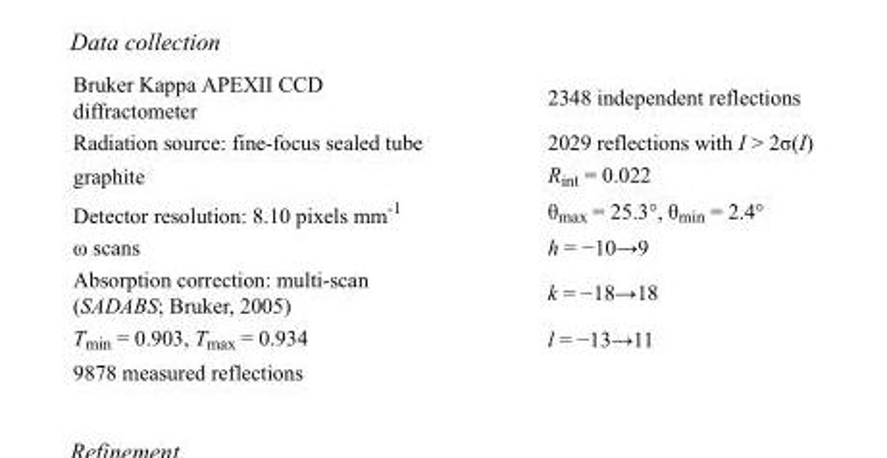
<table><tbody><tr><td>Bruker Kappa APEXII CCD diffractometer</td><td>2348 independent reflections</td></tr><tr><td>Radiation source: fine-focus sealed tube</td><td>2029 reflections with I &gt; 2σ(I)</td></tr><tr><td>graphite</td><td>R<sub>int</sub> = 0.022</td></tr><tr><td>Detector resolution: 8.10 pixels mm<sup>-1</sup></td><td>θ<sub>max</sub> = 25.3°, θ<sub>min</sub> = 2.4°</td></tr><tr><td>ω scans</td><td>h = −10→9</td></tr><tr><td>Absorption correction: multi-scan (SADABS; Bruker, 2005)</td><td>k = −18→18</td></tr><tr><td>T<sub>min</sub> = 0.903, T<sub>max</sub> = 0.934</td><td>l = −13→11</td></tr><tr><td>9878 measured reflections</td><td></td></tr></tbody></table>